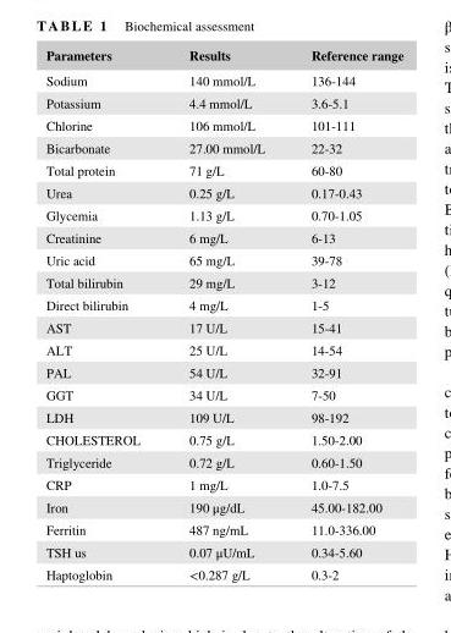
<table><thead><tr><td>Parameters</td><td>Results</td><td>Reference range</td></tr></thead><tbody><tr><td>Sodium</td><td>140 mmol/L</td><td>136- 144</td></tr><tr><td>Potassium</td><td>4.4 mmol/L</td><td>3.6- 5.1</td></tr><tr><td>Chlorine</td><td>106 mmol/L</td><td>101- 111</td></tr><tr><td>Bicarbonate</td><td>27.00 mmol/L</td><td>22- 32</td></tr><tr><td>Total protein</td><td>71 g/L</td><td>60- 80</td></tr><tr><td>Urea</td><td>0.25 g/L</td><td>0.17- 0.43</td></tr><tr><td>Glycemia</td><td>1.13 g/L</td><td>0.70- 1.05</td></tr><tr><td>Creatinine</td><td>6 mg/L</td><td>6- 13</td></tr><tr><td>Uric acid</td><td>65 mg/L</td><td>39- 78</td></tr><tr><td>Total bilirubin</td><td>29 mg/L</td><td>3- 12</td></tr><tr><td>Direct bilirubin</td><td>4 mg/L</td><td>1- 5</td></tr><tr><td>AST</td><td>17 U/L</td><td>15- 41</td></tr><tr><td>ALT</td><td>25 U/L</td><td>14- 54</td></tr><tr><td>PAL</td><td>54 U/L</td><td>32- 91</td></tr><tr><td>GGT</td><td>34 U/L</td><td>7- 50</td></tr><tr><td>LDH</td><td>109 U/L</td><td>98- 192</td></tr><tr><td>CHOLESTEROL</td><td>0.75 g/L</td><td>1.50- 2.00</td></tr><tr><td>Triglyceride</td><td>0.72 g/L</td><td>0.60- 1.50</td></tr><tr><td>CRP</td><td>1 mg/L</td><td>1.0- 7.5</td></tr><tr><td>Iron</td><td>190 μg/dL</td><td>45.00- 182.00</td></tr><tr><td>Ferritin</td><td>487 ng/mL</td><td>11.0- 336.00</td></tr><tr><td>TSH us</td><td>0.07 μU/mL</td><td>0.34- 5.60</td></tr><tr><td>Haptoglobin</td><td>&lt;0.287 g/L</td><td>0.3- 2</td></tr></tbody></table>